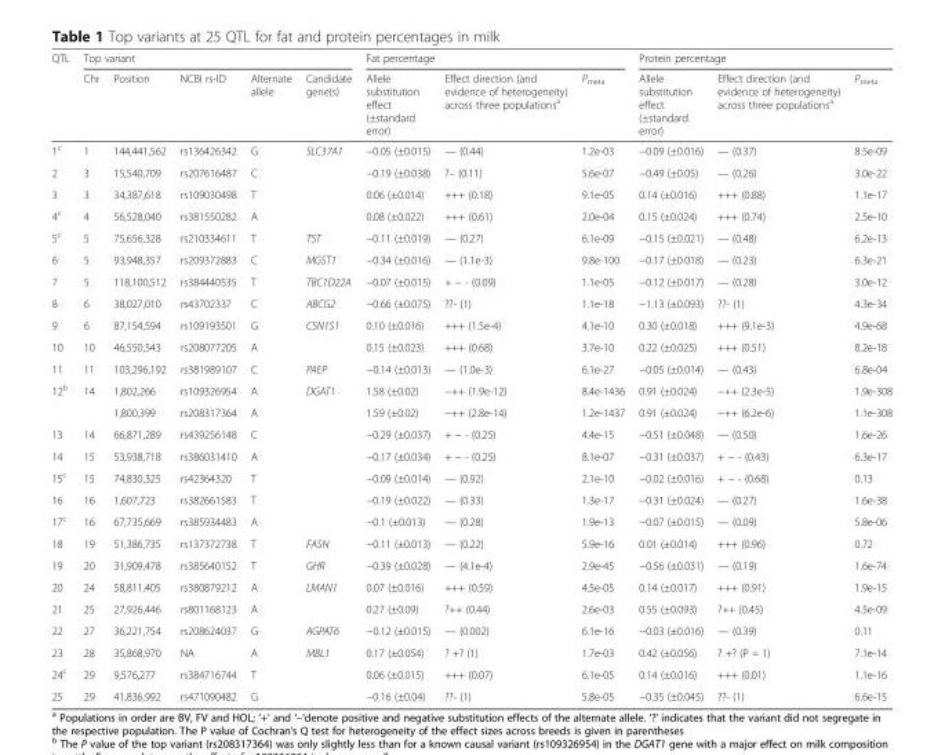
<table><thead><tr><td rowspan="2">QTL</td><td colspan="5">Top variant</td><td colspan="3">Fat percentage</td><td colspan="3">Protein percentage</td></tr><tr><td>Chr</td><td>Position</td><td>NCBI rs-ID</td><td>Alternate allele</td><td>Candidate gene(s)</td><td>Allele substitution effect (±standard error)</td><td>Effect direction (and evidence of heterogeneity) across three populations<sup>a</sup></td><td>P<sub>meta</sub></td><td>Allele substitution effect (±standard error)</td><td>Effect direction (and evidence of heterogeneity) across three populations<sup>a</sup></td><td>P<sub>meta</sub></td></tr></thead><tbody><tr><td>1<sup>c</sup></td><td>1</td><td>144,441,562</td><td>rs136426342</td><td>G</td><td>SLC37A1</td><td>−0.05 (±0.015)</td><td>— (0.44)</td><td>1.2e-03</td><td>−0.09 (±0.016)</td><td>— (0.37)</td><td>8.5e-09</td></tr><tr><td>2</td><td>3</td><td>15,540,709</td><td>rs207616487</td><td>C</td><td></td><td>−0.19 (±0.038)</td><td>?– (0.11)</td><td>5.6e-07</td><td>−0.49 (±0.05)</td><td>— (0.26)</td><td>3.0e-22</td></tr><tr><td>3</td><td>3</td><td>34,387,618</td><td>rs109030498</td><td>T</td><td></td><td>0.06 (±0.014)</td><td>+++ (0.18)</td><td>9.1e-05</td><td>0.14 (±0.016)</td><td>+++ (0.88)</td><td>1.1e-17</td></tr><tr><td>4<sup>c</sup></td><td>4</td><td>56,528,040</td><td>rs381550282</td><td>A</td><td></td><td>0.08 (±0.022)</td><td>+++ (0.61)</td><td>2.0e-04</td><td>0.15 (±0.024)</td><td>+++ (0.74)</td><td>2.5e-10</td></tr><tr><td>5<sup>c</sup></td><td>5</td><td>75,656,328</td><td>rs210334611</td><td>T</td><td>TST</td><td>−0.11 (±0.019)</td><td>— (0.27)</td><td>6.1e-09</td><td>−0.15 (±0.021)</td><td>— (0.48)</td><td>6.2e-13</td></tr><tr><td>6</td><td>5</td><td>93,948,357</td><td>rs209372883</td><td>C</td><td>MGST1</td><td>−0.34 (±0.016)</td><td>— (1.1e-3)</td><td>9.8e-100</td><td>−0.17 (±0.018)</td><td>— (0.23)</td><td>6.3e-21</td></tr><tr><td>7</td><td>5</td><td>118,100,512</td><td>rs384440535</td><td>T</td><td>TBC1D22A</td><td>−0.07 (±0.015)</td><td>+ − - (0.09)</td><td>1.1e-05</td><td>−0.12 (±0.017)</td><td>— (0.28)</td><td>3.0e-12</td></tr><tr><td>8</td><td>6</td><td>38,027,010</td><td>rs43702337</td><td>C</td><td>ABCG2</td><td>−0.66 (±0.075)</td><td>??- (1)</td><td>1.1e-18</td><td>−1.13 (±0.093)</td><td>??- (1)</td><td>4.3e-34</td></tr><tr><td>9</td><td>6</td><td>87,154,594</td><td>rs109193501</td><td>G</td><td>CSN1S1</td><td>0.10 (±0.016)</td><td>+++ (1.5e-4)</td><td>4.1e-10</td><td>0.30 (±0.018)</td><td>+++ (9.1e-3)</td><td>4.9e-68</td></tr><tr><td>10</td><td>10</td><td>46,550,543</td><td>rs208077205</td><td>A</td><td></td><td>0.15 (±0.023)</td><td>+++ (0.68)</td><td>3.7e-10</td><td>0.22 (±0.025)</td><td>+++ (0.51)</td><td>8.2e-18</td></tr><tr><td>11</td><td>11</td><td>103,296,192</td><td>rs381989107</td><td>C</td><td>PAEP</td><td>−0.14 (±0.013)</td><td>— (1.0e-3)</td><td>6.1e-27</td><td>−0.05 (±0.014)</td><td>— (0.43)</td><td>6.8e-04</td></tr><tr><td rowspan="2">12<sup>b</sup></td><td>14</td><td>1,802,266</td><td>rs109326954</td><td>A</td><td>DGAT1</td><td>1.58 (±0.02)</td><td>−++ (1.9e-12)</td><td>8.4e-1436</td><td>0.91 (±0.024)</td><td>−++ (2.3e-5)</td><td>1.9e-308</td></tr><tr><td></td><td>1,800,399</td><td>rs208317364</td><td>A</td><td></td><td>1.59 (±0.02)</td><td>−++ (2.8e-14)</td><td>1.2e-1437</td><td>0.91 (±0.024)</td><td>−++ (6.2e-6)</td><td>1.1e-308</td></tr><tr><td>13</td><td>14</td><td>66,871,289</td><td>rs439256148</td><td>C</td><td></td><td>−0.29 (±0.037)</td><td>+ − - (0.25)</td><td>4.4e-15</td><td>−0.51 (±0.048)</td><td>— (0.50)</td><td>1.6e-26</td></tr><tr><td>14</td><td>15</td><td>53,938,718</td><td>rs386031410</td><td>A</td><td></td><td>−0.17 (±0.034)</td><td>+ − - (0.25)</td><td>8.1e-07</td><td>−0.31 (±0.037)</td><td>+ − - (0.43)</td><td>6.3e-17</td></tr><tr><td>15<sup>c</sup></td><td>15</td><td>74,830,325</td><td>rs42364320</td><td>T</td><td></td><td>−0.09 (±0.014)</td><td>— (0.92)</td><td>2.1e-10</td><td>−0.02 (±0.016)</td><td>+ − - (0.68)</td><td>0.13</td></tr><tr><td>16</td><td>16</td><td>1,607,723</td><td>rs382661583</td><td>T</td><td></td><td>−0.19 (±0.022)</td><td>— (0.33)</td><td>1.3e-17</td><td>−0.31 (±0.024)</td><td>— (0.27)</td><td>1.6e-38</td></tr><tr><td>17<sup>c</sup></td><td>16</td><td>67,735,669</td><td>rs385934483</td><td>A</td><td></td><td>−0.1 (±0.013)</td><td>— (0.28)</td><td>1.9e-13</td><td>−0.07 (±0.015)</td><td>— (0.09)</td><td>5.8e-06</td></tr><tr><td>18</td><td>19</td><td>51,386,735</td><td>rs137372738</td><td>T</td><td>FASN</td><td>−0.11 (±0.013)</td><td>— (0.22)</td><td>5.9e-16</td><td>0.01 (±0.014)</td><td>+++ (0.96)</td><td>0.72</td></tr><tr><td>19</td><td>20</td><td>31,909,478</td><td>rs385640152</td><td>T</td><td>GHR</td><td>−0.39 (±0.028)</td><td>— (4.1e-4)</td><td>2.9e-45</td><td>−0.56 (±0.031)</td><td>— (0.19)</td><td>1.6e-74</td></tr><tr><td>20</td><td>24</td><td>58,811,405</td><td>rs380879212</td><td>A</td><td>LMAN1</td><td>0.07 (±0.016)</td><td>+++ (0.59)</td><td>4.5e-05</td><td>0.14 (±0.017)</td><td>+++ (0.91)</td><td>1.9e-15</td></tr><tr><td>21</td><td>25</td><td>27,926,446</td><td>rs801168123</td><td>A</td><td></td><td>0.27 (±0.09)</td><td>?++ (0.44)</td><td>2.6e-03</td><td>0.55 (±0.093)</td><td>?++ (0.45)</td><td>4.5e-09</td></tr><tr><td>22</td><td>27</td><td>36,221,754</td><td>rs208624037</td><td>G</td><td>AGPAT6</td><td>−0.12 (±0.015)</td><td>— (0.002)</td><td>6.1e-16</td><td>−0.03 (±0.016)</td><td>— (0.39)</td><td>0.11</td></tr><tr><td>23</td><td>28</td><td>35,868,970</td><td>NA</td><td>A</td><td>MBL1</td><td>0.17 (±0.054)</td><td>? +? (1)</td><td>1.7e-03</td><td>0.42 (±0.056)</td><td>? +? (P = 1)</td><td>7.1e-14</td></tr><tr><td>24<sup>c</sup></td><td>29</td><td>9,576,277</td><td>rs384716744</td><td>T</td><td></td><td>0.06 (±0.015)</td><td>+++ (0.07)</td><td>6.1e-05</td><td>0.14 (±0.016)</td><td>+++ (0.01)</td><td>1.1e-16</td></tr><tr><td>25</td><td>29</td><td>41,836,992</td><td>rs471090482</td><td>G</td><td></td><td>−0.16 (±0.04)</td><td>??- (1)</td><td>5.8e-05</td><td>−0.35 (±0.045)</td><td>??- (1)</td><td>6.6e-15</td></tr></tbody></table>